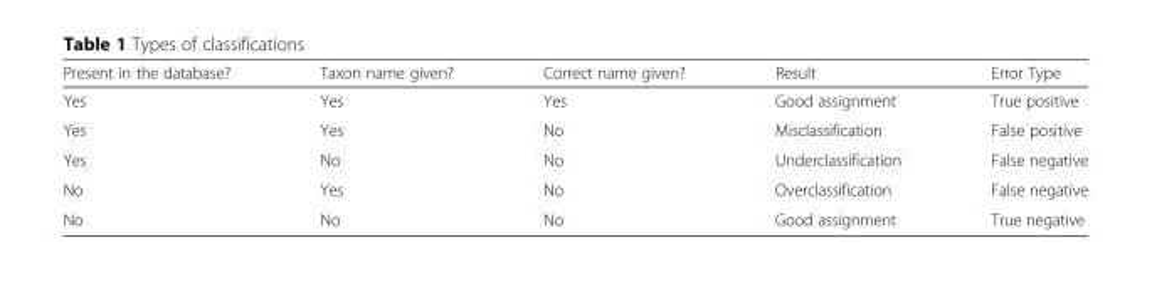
<table><thead><tr><td>Present in the database?</td><td>Taxon name given?</td><td>Correct name given?</td><td>Result</td><td>Error Type</td></tr></thead><tbody><tr><td>Yes</td><td>Yes</td><td>Yes</td><td>Good assignment</td><td>True positive</td></tr><tr><td>Yes</td><td>Yes</td><td>No</td><td>Misclassification</td><td>False positive</td></tr><tr><td>Yes</td><td>No</td><td>No</td><td>Underclassification</td><td>False negative</td></tr><tr><td>No</td><td>Yes</td><td>No</td><td>Overclassification</td><td>False negative</td></tr><tr><td>No</td><td>No</td><td>No</td><td>Good assignment</td><td>True negative</td></tr></tbody></table>